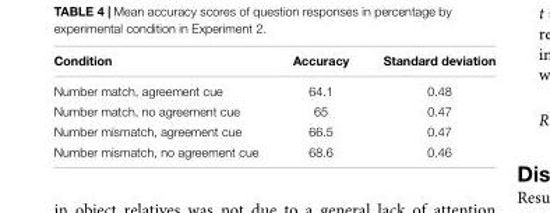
<table><thead><tr><td>Condition</td><td>Accuracy</td><td>Standard deviation</td></tr></thead><tbody><tr><td>Number match, agreement cue</td><td>64.1</td><td>0.48</td></tr><tr><td>Number match, no agreement cue</td><td>65</td><td>0.47</td></tr><tr><td>Number mismatch, agreement cue</td><td>66.5</td><td>0.47</td></tr><tr><td>Number mismatch, no agreement cue</td><td>68.6</td><td>0.46</td></tr></tbody></table>